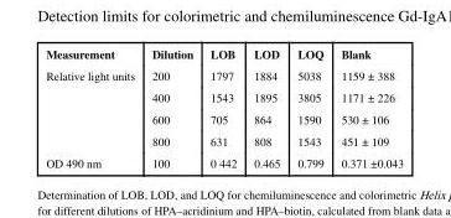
<table><thead><tr><td>Measurement</td><td>Dilution</td><td>LOB</td><td>LOD</td><td>LOQ</td><td>Blank</td></tr></thead><tbody><tr><td rowspan="4">Relative light units</td><td>200</td><td>1797</td><td>1884</td><td>5038</td><td>1159 ± 388</td></tr><tr><td>400</td><td>1543</td><td>1895</td><td>3805</td><td>1171 ± 226</td></tr><tr><td>600</td><td>705</td><td>864</td><td>1590</td><td>530 ± 106</td></tr><tr><td>800</td><td>631</td><td>808</td><td>1543</td><td>451 ± 109</td></tr><tr><td>OD 490 nm</td><td>100</td><td>0 442</td><td>0.465</td><td>0.799</td><td>0.371 ±0.043</td></tr></tbody></table>